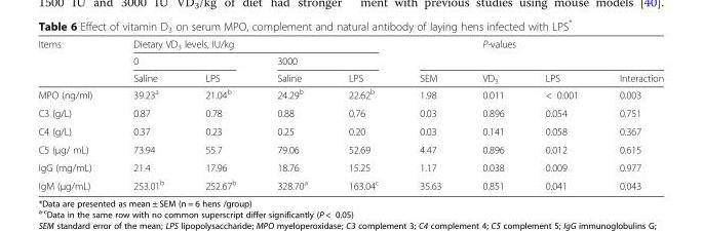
<table><thead><tr><td rowspan="3">Items</td><td colspan="4">Dietary VD<sub>3</sub> levels, IU/kg</td><td rowspan="3">SEM</td><td rowspan="2" colspan="3">P-values</td></tr><tr><td colspan="2">0</td><td colspan="2">3000</td></tr><tr><td>Saline</td><td>LPS</td><td>Saline</td><td>LPS</td><td>VD<sub>3</sub></td><td>LPS</td><td>Interaction</td></tr></thead><tbody><tr><td>MPO (ng/ml)</td><td>39.23<sup>a</sup></td><td>21.04<sup>b</sup></td><td>24.29<sup>b</sup></td><td>22.62<sup>b</sup></td><td>1.98</td><td>0.011</td><td>&lt; 0.001</td><td>0.003</td></tr><tr><td>C3 (g/L)</td><td>0.87</td><td>0.78</td><td>0.88</td><td>0.76</td><td>0.03</td><td>0.896</td><td>0.054</td><td>0.751</td></tr><tr><td>C4 (g/L)</td><td>0.37</td><td>0.23</td><td>0.25</td><td>0.20</td><td>0.03</td><td>0.141</td><td>0.058</td><td>0.367</td></tr><tr><td>C5 (μg/ mL)</td><td>73.94</td><td>55.7</td><td>79.06</td><td>52.69</td><td>4.47</td><td>0.896</td><td>0.012</td><td>0.615</td></tr><tr><td>IgG (mg/mL)</td><td>21.4</td><td>17.96</td><td>18.76</td><td>15.25</td><td>1.17</td><td>0.038</td><td>0.009</td><td>0.977</td></tr><tr><td>IgM (μg/mL)</td><td>253.01<sup>b</sup></td><td>252.67<sup>b</sup></td><td>328.70<sup>a</sup></td><td>163.04<sup>c</sup></td><td>35.63</td><td>0.851</td><td>0.041</td><td>0.043</td></tr></tbody></table>